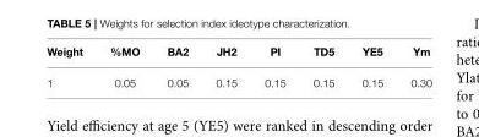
<table><thead><tr><td>Weight</td><td>%MO</td><td>BA2</td><td>JH2</td><td>PI</td><td>TD5</td><td>YE5</td><td>Ym</td></tr></thead><tbody><tr><td>1</td><td>0.05</td><td>0.05</td><td>0.15</td><td>0.15</td><td>0.15</td><td>0.15</td><td>0.30</td></tr></tbody></table>